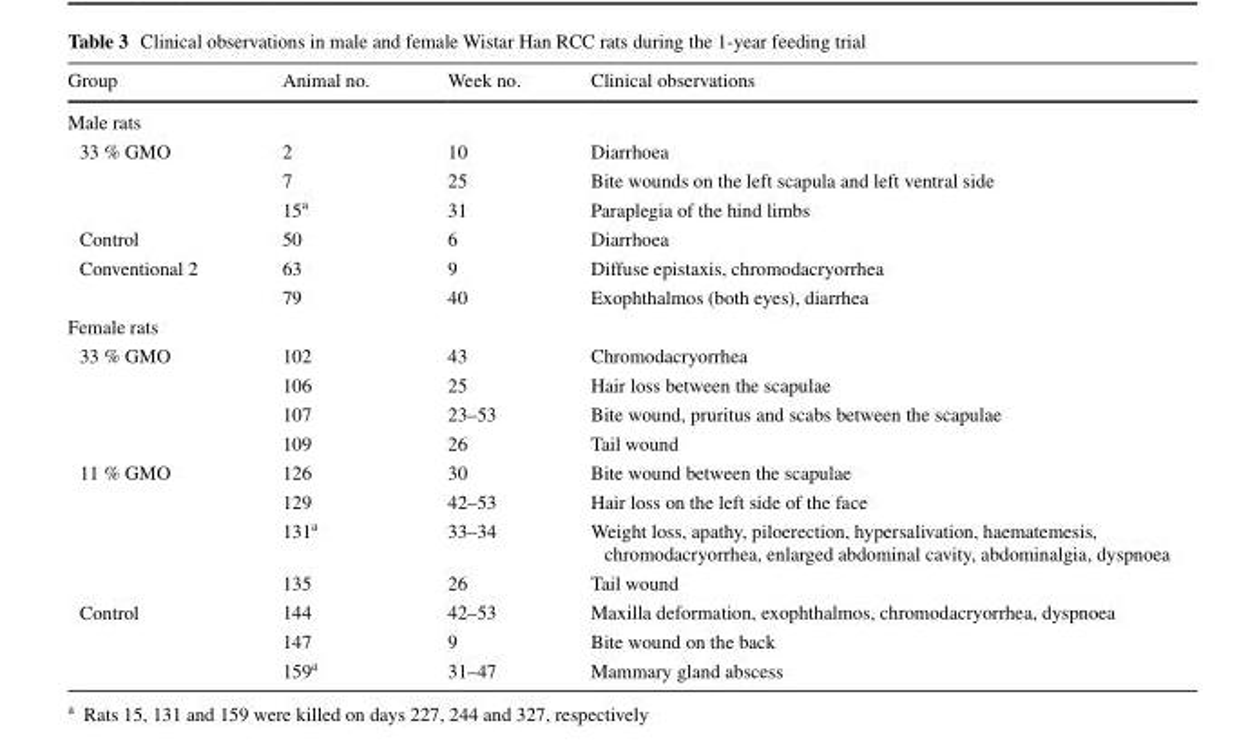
<table><thead><tr><td>Group</td><td>Animal no.</td><td>Week no.</td><td>Clinical observations</td></tr></thead><tbody><tr><td colspan="4">Male rats</td></tr><tr><td rowspan="3">33 % GMO</td><td>2</td><td>10</td><td>Diarrhoea</td></tr><tr><td>7</td><td>25</td><td>Bite wounds on the left scapula and left ventral side</td></tr><tr><td>15<sup>a</sup></td><td>31</td><td>Paraplegia of the hind limbs</td></tr><tr><td>Control</td><td>50</td><td>6</td><td>Diarrhoea</td></tr><tr><td rowspan="2">Conventional 2</td><td>63</td><td>9</td><td>Diffuse epistaxis, chromodacryorrhea</td></tr><tr><td>79</td><td>40</td><td>Exophthalmos (both eyes), diarrhea</td></tr><tr><td colspan="4">Female rats</td></tr><tr><td rowspan="4">33 % GMO</td><td>102</td><td>43</td><td>Chromodacryorrhea</td></tr><tr><td>106</td><td>25</td><td>Hair loss between the scapulae</td></tr><tr><td>107</td><td>23–53</td><td>Bite wound, pruritus and scabs between the scapulae</td></tr><tr><td>109</td><td>26</td><td>Tail wound</td></tr><tr><td rowspan="4">11 % GMO</td><td>126</td><td>30</td><td>Bite wound between the scapulae</td></tr><tr><td>129</td><td>42–53</td><td>Hair loss on the left side of the face</td></tr><tr><td>131<sup>a</sup></td><td>33–34</td><td>Weight loss, apathy, piloerection, hypersalivation, haematemesis, chromodacryorrhea, enlarged abdominal cavity, abdominalgia, dyspnoea</td></tr><tr><td>135</td><td>26</td><td>Tail wound</td></tr><tr><td rowspan="3">Control</td><td>144</td><td>42–53</td><td>Maxilla deformation, exophthalmos, chromodacryorrhea, dyspnoea</td></tr><tr><td>147</td><td>9</td><td>Bite wound on the back</td></tr><tr><td>159<sup>a</sup></td><td>31–47</td><td>Mammary gland abscess</td></tr></tbody></table>